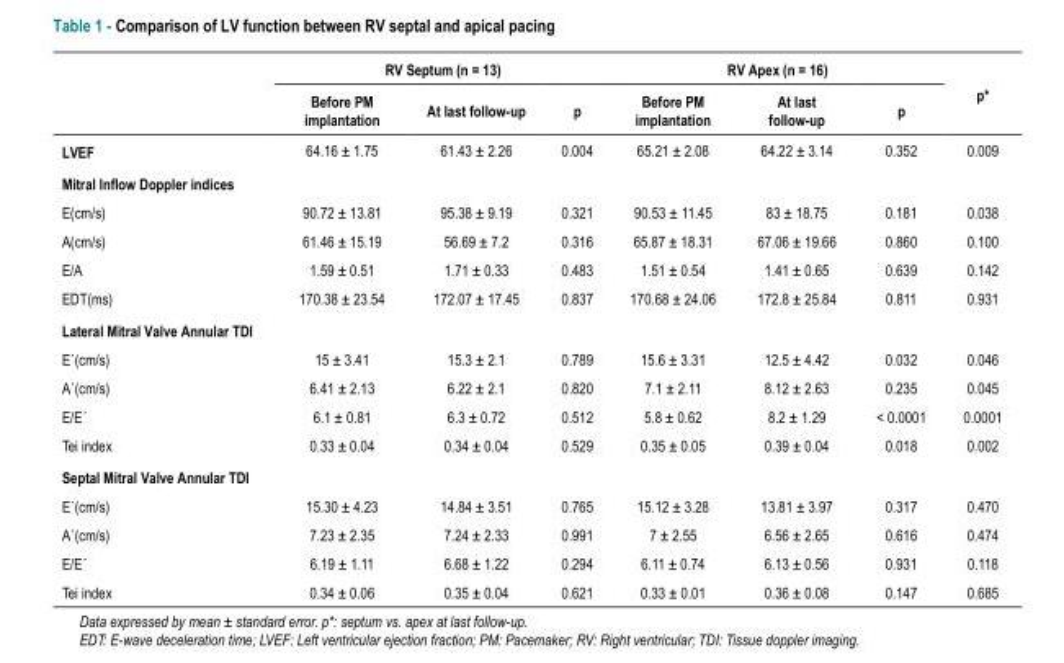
<table><thead><tr><td rowspan="2"></td><td colspan="3">RV Septum (n = 13)</td><td colspan="3">RV Apex (n = 16)</td><td rowspan="2">p*</td></tr><tr><td>Before PM implantation</td><td>At last follow-up</td><td>p</td><td>Before PM implantation</td><td>At last follow-up</td><td>p</td></tr></thead><tbody><tr><td>LVEF</td><td>64.16 ± 1.75</td><td>61.43 ± 2.26</td><td>0.004</td><td>65.21 ± 2.08</td><td>64.22 ± 3.14</td><td>0.352</td><td>0.009</td></tr><tr><td colspan="8">Mitral Inflow Doppler indices</td></tr><tr><td>E(cm/s)</td><td>90.72 ± 13.81</td><td>95.38 ± 9.19</td><td>0.321</td><td>90.53 ± 11.45</td><td>83 ± 18.75</td><td>0.181</td><td>0.038</td></tr><tr><td>A(cm/s)</td><td>61.46 ± 15.19</td><td>56.69 ± 7.2</td><td>0.316</td><td>65.87 ± 18.31</td><td>67.06 ± 19.66</td><td>0.860</td><td>0.100</td></tr><tr><td>E/A</td><td>1.59 ± 0.51</td><td>1.71 ± 0.33</td><td>0.483</td><td>1.51 ± 0.54</td><td>1.41 ± 0.65</td><td>0.639</td><td>0.142</td></tr><tr><td>EDT(ms)</td><td>170.38 ± 23.54</td><td>172.07 ± 17.45</td><td>0.837</td><td>170.68 ± 24.06</td><td>172.8 ± 25.84</td><td>0.811</td><td>0.931</td></tr><tr><td colspan="8">Lateral Mitral Valve Annular TDI</td></tr><tr><td>E´(cm/s)</td><td>15 ± 3.41</td><td>15.3 ± 2.1</td><td>0.789</td><td>15.6 ± 3.31</td><td>12.5 ± 4.42</td><td>0.032</td><td>0.046</td></tr><tr><td>A´(cm/s)</td><td>6.41 ± 2.13</td><td>6.22 ± 2.1</td><td>0.820</td><td>7.1 ± 2.11</td><td>8.12 ± 2.63</td><td>0.235</td><td>0.045</td></tr><tr><td>E/E´</td><td>6.1 ± 0.81</td><td>6.3 ± 0.72</td><td>0.512</td><td>5.8 ± 0.62</td><td>8.2 ± 1.29</td><td>&lt; 0.0001</td><td>0.0001</td></tr><tr><td>Tei index</td><td>0.33 ± 0.04</td><td>0.34 ± 0.04</td><td>0.529</td><td>0.35 ± 0.05</td><td>0.39 ± 0.04</td><td>0.018</td><td>0.002</td></tr><tr><td colspan="8">Septal Mitral Valve Annular TDI</td></tr><tr><td>E´(cm/s)</td><td>15.30 ± 4.23</td><td>14.84 ± 3.51</td><td>0.765</td><td>15.12 ± 3.28</td><td>13.81 ± 3.97</td><td>0.317</td><td>0.470</td></tr><tr><td>A´(cm/s)</td><td>7.23 ± 2.35</td><td>7.24 ± 2.33</td><td>0.991</td><td>7 ± 2.55</td><td>6.56 ± 2.65</td><td>0.616</td><td>0.474</td></tr><tr><td>E/E´</td><td>6.19 ± 1.11</td><td>6.68 ± 1.22</td><td>0.294</td><td>6.11 ± 0.74</td><td>6.13 ± 0.56</td><td>0.931</td><td>0.118</td></tr><tr><td>Tei index</td><td>0.34 ± 0.06</td><td>0.35 ± 0.04</td><td>0.621</td><td>0.33 ± 0.01</td><td>0.36 ± 0.08</td><td>0.147</td><td>0.685</td></tr></tbody></table>